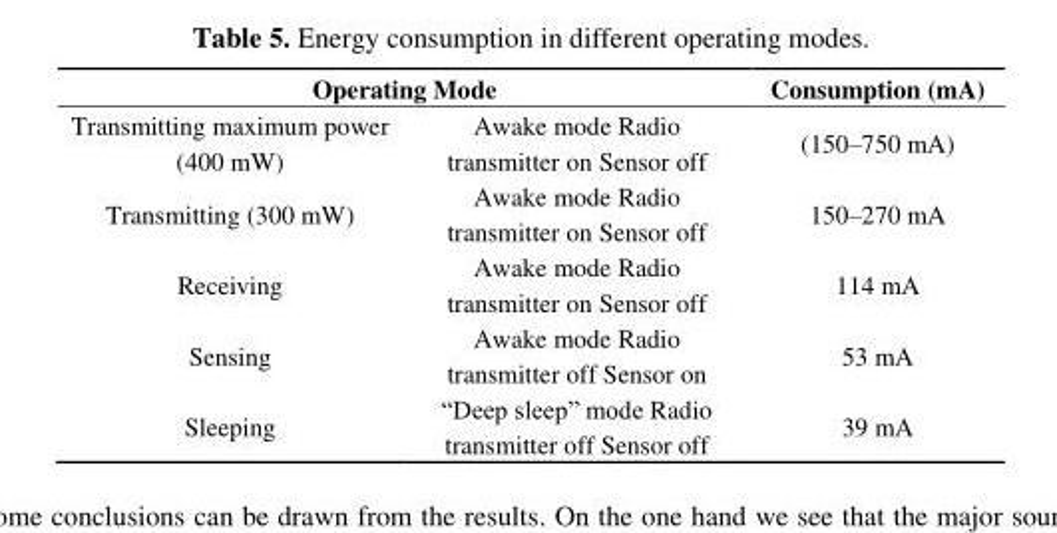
<table><thead><tr><td colspan="2">Operating Mode</td><td rowspan="2">Consumption (mA) (150–750 mA)</td></tr><tr><td>Transmitting maximum power (400 mW)</td><td>Awake mode Radio transmitter on Sensor off</td></tr></thead><tbody><tr><td>Transmitting (300 mW)</td><td>Awake mode Radio transmitter on Sensor off</td><td>150–270 mA</td></tr><tr><td>Receiving</td><td>Awake mode Radio transmitter on Sensor off</td><td>114 mA</td></tr><tr><td>Sensing</td><td>Awake mode Radio transmitter off Sensor on</td><td>53 mA</td></tr><tr><td>Sleeping</td><td>“Deep sleep” mode Radio transmitter off Sensor off</td><td>39 mA</td></tr></tbody></table>